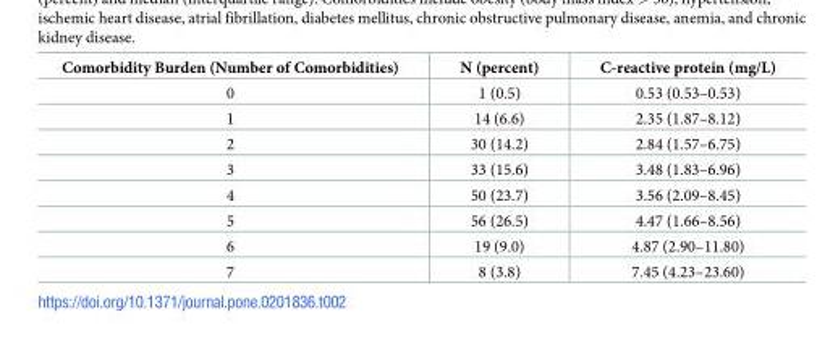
<table><thead><tr><td>Comorbidity Burden (Number of Comorbidities)</td><td>N (percent)</td><td>C-reactive protein (mg/L)</td></tr></thead><tbody><tr><td>0</td><td>1 (0.5)</td><td>0.53 (0.53–0.53)</td></tr><tr><td>1</td><td>14 (6.6)</td><td>2.35 (1.87–8.12)</td></tr><tr><td>2</td><td>30 (14.2)</td><td>2.84 (1.57–6.75)</td></tr><tr><td>3</td><td>33 (15.6)</td><td>3.48 (1.83–6.96)</td></tr><tr><td>4</td><td>50 (23.7)</td><td>3.56 (2.09–8.45)</td></tr><tr><td>5</td><td>56 (26.5)</td><td>4.47 (1.66–8.56)</td></tr><tr><td>6</td><td>19 (9.0)</td><td>4.87 (2.90–11.80)</td></tr><tr><td>7</td><td>8 (3.8)</td><td>7.45 (4.23–23.60)</td></tr></tbody></table>